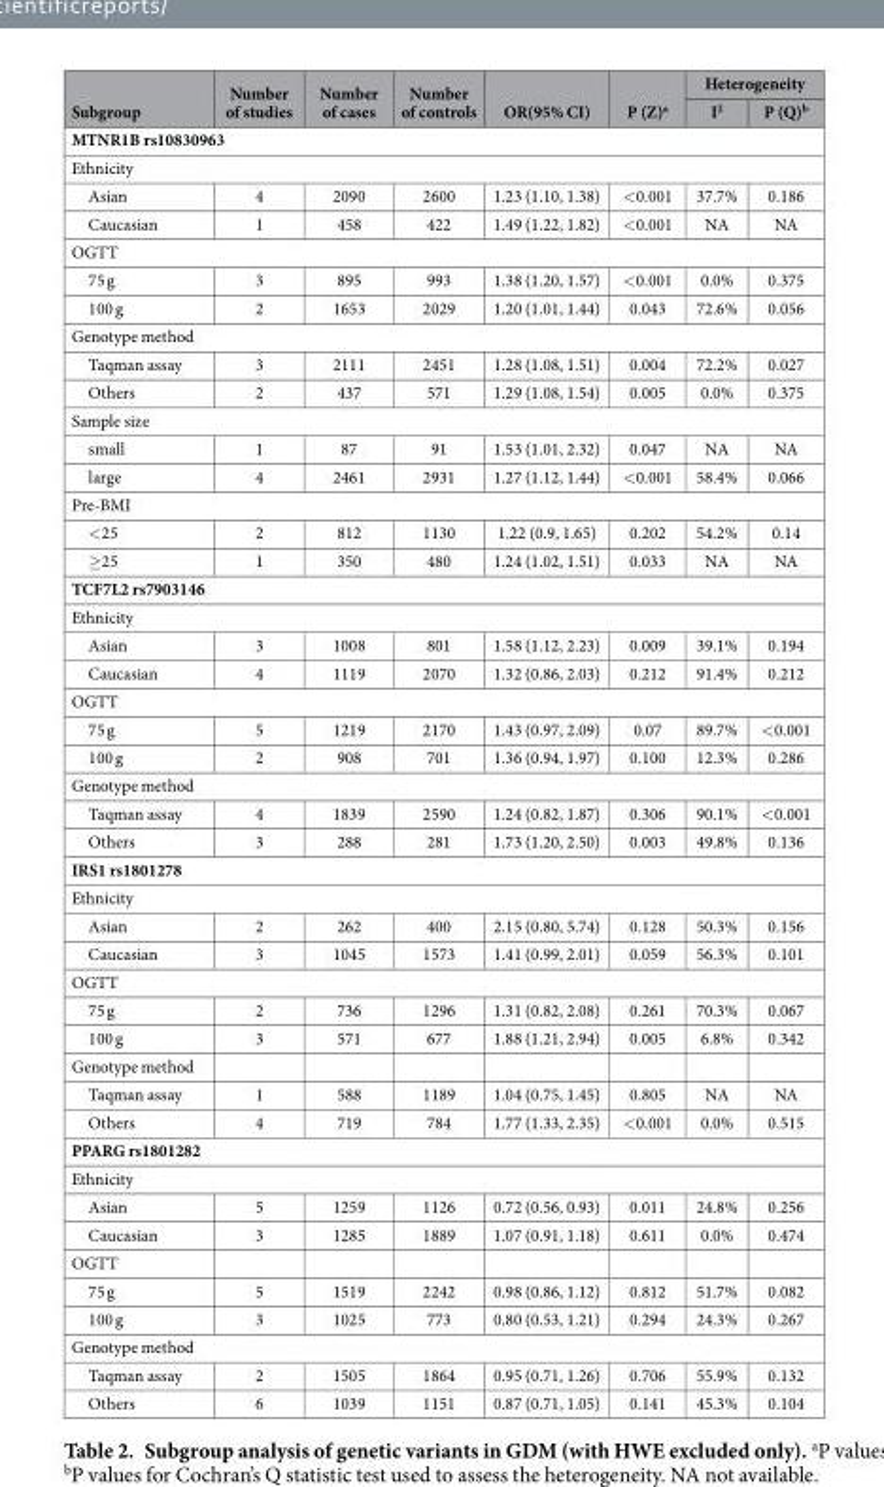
<table><thead><tr><td rowspan="2">Subgroup</td><td rowspan="2">Number of studies</td><td rowspan="2">Number of cases</td><td rowspan="2">Number of controls</td><td rowspan="2">OR(95% CI)</td><td rowspan="2">P (Z)<sup>a</sup></td><td colspan="2">Heterogeneity</td></tr><tr><td>I<sup>2</sup></td><td>P (Q)<sup>b</sup></td></tr></thead><tbody><tr><td colspan="8">MTNR1B rs10830963</td></tr><tr><td colspan="8">Ethnicity</td></tr><tr><td>Asian</td><td>4</td><td>2090</td><td>2600</td><td>1.23 (1.10, 1.38)</td><td>&lt; 0.001</td><td>37.7%</td><td>0.186</td></tr><tr><td>Caucasian</td><td>1</td><td>458</td><td>422</td><td>1.49 (1.22, 1.82)</td><td>&lt; 0.001</td><td>NA</td><td>NA</td></tr><tr><td colspan="8">OGTT</td></tr><tr><td>75 g</td><td>3</td><td>895</td><td>993</td><td>1.38 (1.20, 1.57)</td><td>&lt; 0.001</td><td>0.0%</td><td>0.375</td></tr><tr><td>100 g</td><td>2</td><td>1653</td><td>2029</td><td>1.20 (1.01, 1.44)</td><td>0.043</td><td>72.6%</td><td>0.056</td></tr><tr><td colspan="8">Genotype method</td></tr><tr><td>Taqman assay</td><td>3</td><td>2111</td><td>2451</td><td>1.28 (1.08, 1.51)</td><td>0.004</td><td>72.2%</td><td>0.027</td></tr><tr><td>Others</td><td>2</td><td>437</td><td>571</td><td>1.29 (1.08, 1.54)</td><td>0.005</td><td>0.0%</td><td>0.375</td></tr><tr><td colspan="8">Sample size</td></tr><tr><td>small</td><td>1</td><td>87</td><td>91</td><td>1.53 (1.01, 2.32)</td><td>0.047</td><td>NA</td><td>NA</td></tr><tr><td>large</td><td>4</td><td>2461</td><td>2931</td><td>1.27 (1.12, 1.44)</td><td>&lt; 0.001</td><td>58.4%</td><td>0.066</td></tr><tr><td colspan="8">Pre-BMI</td></tr><tr><td>&lt; 25</td><td>2</td><td>812</td><td>1130</td><td>1.22 (0.9, 1.65)</td><td>0.202</td><td>54.2%</td><td>0.14</td></tr><tr><td>≥ 25</td><td>1</td><td>350</td><td>480</td><td>1.24 (1.02, 1.51)</td><td>0.033</td><td>NA</td><td>NA</td></tr><tr><td colspan="8">TCF7L2 rs7903146</td></tr><tr><td colspan="8">Ethnicity</td></tr><tr><td>Asian</td><td>3</td><td>1008</td><td>801</td><td>1.58 (1.12, 2.23)</td><td>0.009</td><td>39.1%</td><td>0.194</td></tr><tr><td>Caucasian</td><td>4</td><td>1119</td><td>2070</td><td>1.32 (0.86, 2.03)</td><td>0.212</td><td>91.4%</td><td>0.212</td></tr><tr><td colspan="8">OGTT</td></tr><tr><td>75 g</td><td>5</td><td>1219</td><td>2170</td><td>1.43 (0.97, 2.09)</td><td>0.07</td><td>89.7%</td><td>&lt; 0.001</td></tr><tr><td>100 g</td><td>2</td><td>908</td><td>701</td><td>1.36 (0.94, 1.97)</td><td>0.100</td><td>12.3%</td><td>0.286</td></tr><tr><td colspan="8">Genotype method</td></tr><tr><td>Taqman assay</td><td>4</td><td>1839</td><td>2590</td><td>1.24 (0.82, 1.87)</td><td>0.306</td><td>90.1%</td><td>&lt; 0.001</td></tr><tr><td>Others</td><td>3</td><td>288</td><td>281</td><td>1.73 (1.20, 2.50)</td><td>0.003</td><td>49.8%</td><td>0.136</td></tr><tr><td colspan="8">IRS1 rs1801278</td></tr><tr><td colspan="8">Ethnicity</td></tr><tr><td>Asian</td><td>2</td><td>262</td><td>400</td><td>2.15 (0.80, 5.74)</td><td>0.128</td><td>50.3%</td><td>0.156</td></tr><tr><td>Caucasian</td><td>3</td><td>1045</td><td>1573</td><td>1.41 (0.99, 2.01)</td><td>0.059</td><td>56.3%</td><td>0.101</td></tr><tr><td colspan="8">OGTT</td></tr><tr><td>75 g</td><td>2</td><td>736</td><td>1296</td><td>1.31 (0.82, 2.08)</td><td>0.261</td><td>70.3%</td><td>0.067</td></tr><tr><td>100 g</td><td>3</td><td>571</td><td>677</td><td>1.88 (1.21, 2.94)</td><td>0.005</td><td>6.8%</td><td>0.342</td></tr><tr><td colspan="8">Genotype method</td></tr><tr><td>Taqman assay</td><td>1</td><td>588</td><td>1189</td><td>1.04 (0.75, 1.45)</td><td>0.805</td><td>NA</td><td>NA</td></tr><tr><td>Others</td><td>4</td><td>719</td><td>784</td><td>1.77 (1.33, 2.35)</td><td>&lt; 0.001</td><td>0.0%</td><td>0.515</td></tr><tr><td colspan="8">PPARG rs1801282</td></tr><tr><td colspan="8">Ethnicity</td></tr><tr><td>Asian</td><td>5</td><td>1259</td><td>1126</td><td>0.72 (0.56, 0.93)</td><td>0.011</td><td>24.8%</td><td>0.256</td></tr><tr><td>Caucasian</td><td>3</td><td>1285</td><td>1889</td><td>1.07 (0.91, 1.18)</td><td>0.611</td><td>0.0%</td><td>0.474</td></tr><tr><td colspan="8">OGTT</td></tr><tr><td>75 g</td><td>5</td><td>1519</td><td>2242</td><td>0.98 (0.86, 1.12)</td><td>0.812</td><td>51.7%</td><td>0.082</td></tr><tr><td>100 g</td><td>3</td><td>1025</td><td>773</td><td>0.80 (0.53, 1.21)</td><td>0.294</td><td>24.3%</td><td>0.267</td></tr><tr><td colspan="8">Genotype method</td></tr><tr><td>Taqman assay</td><td>2</td><td>1505</td><td>1864</td><td>0.95 (0.71, 1.26)</td><td>0.706</td><td>55.9%</td><td>0.132</td></tr><tr><td>Others</td><td>6</td><td>1039</td><td>1151</td><td>0.87 (0.71, 1.05)</td><td>0.141</td><td>45.3%</td><td>0.104</td></tr></tbody></table>